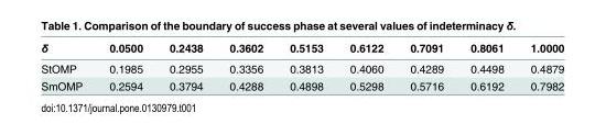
<table><thead><tr><td>δ</td><td>0.0500</td><td>0.2438</td><td>0.3602</td><td>0.5153</td><td>0.6122</td><td>0.7091</td><td>0.8061</td><td>1.0000</td></tr></thead><tbody><tr><td>StOMP</td><td>0.1985</td><td>0.2955</td><td>0.3356</td><td>0.3813</td><td>0.4060</td><td>0.4289</td><td>0.4498</td><td>0.4879</td></tr><tr><td>SmOMP</td><td>0.2594</td><td>0.3794</td><td>0.4288</td><td>0.4898</td><td>0.5298</td><td>0.5716</td><td>0.6192</td><td>0.7982</td></tr></tbody></table>